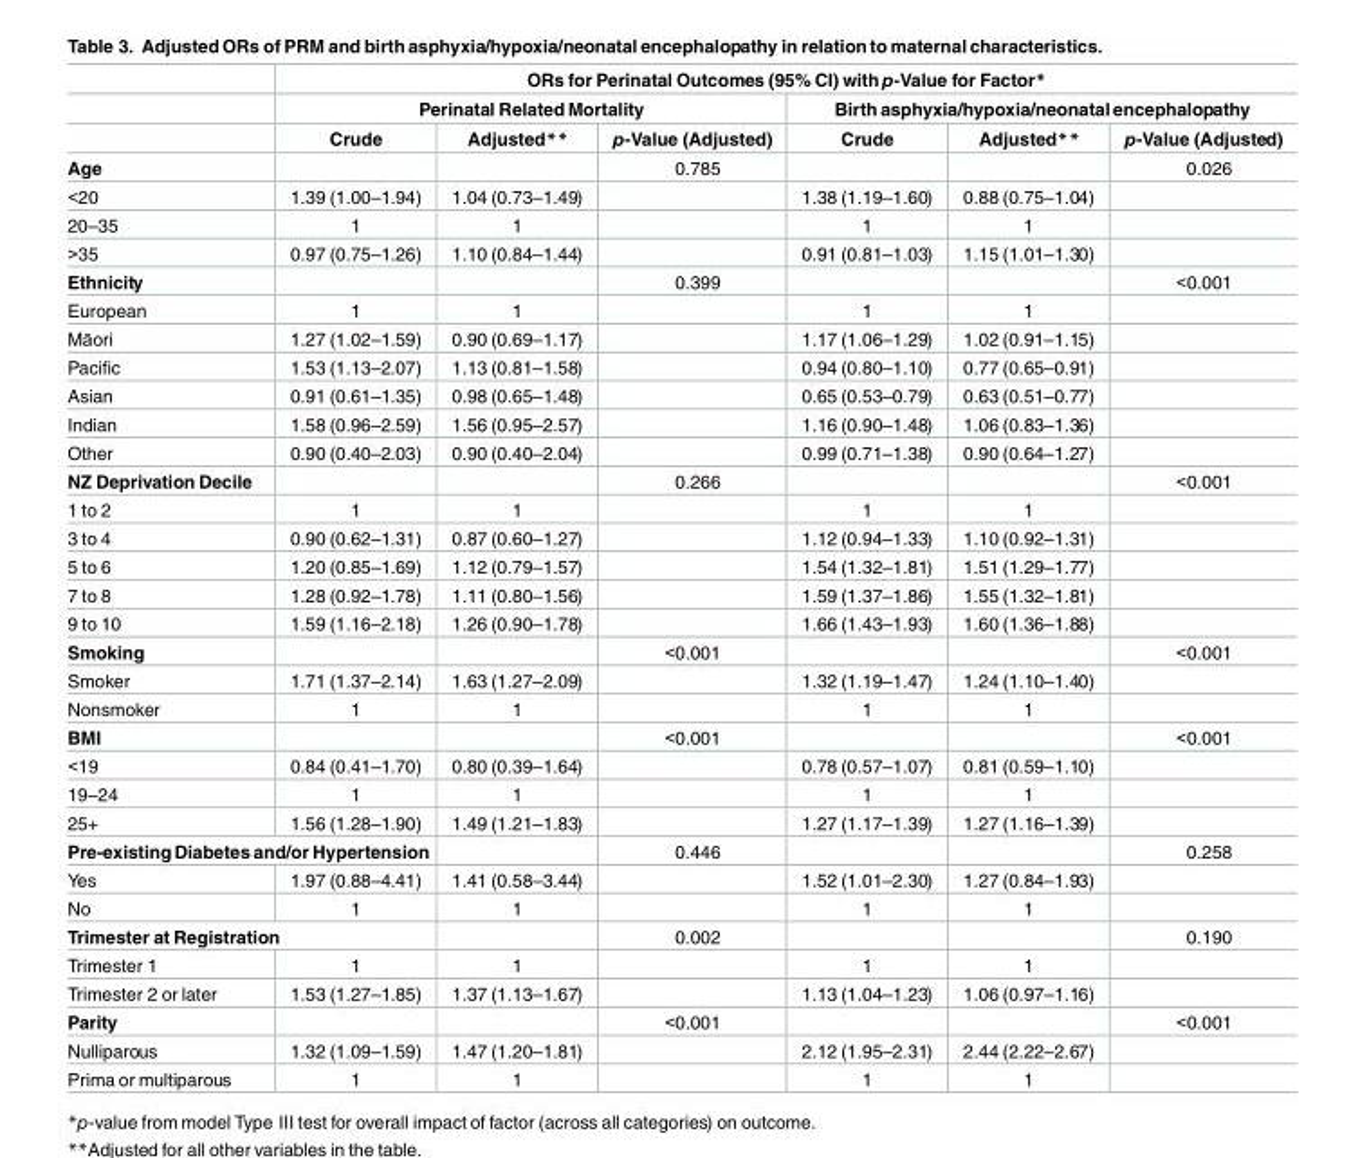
<table><thead><tr><td rowspan="3"></td><td colspan="6">ORs for Perinatal Outcomes (95% CI) with p-Value for Factor*</td></tr><tr><td colspan="3">Perinatal Related Mortality</td><td colspan="3">Birth asphyxia/hypoxia/neonatal encephalopathy</td></tr><tr><td>Crude</td><td>Adjusted**</td><td>p-Value (Adjusted)</td><td>Crude</td><td>Adjusted**</td><td>p-Value (Adjusted)</td></tr></thead><tbody><tr><td>Age</td><td></td><td></td><td>0.785</td><td></td><td></td><td>0.026</td></tr><tr><td>&lt;20</td><td>1.39 (1.00–1.94)</td><td>1.04 (0.73–1.49)</td><td></td><td>1.38 (1.19–1.60)</td><td>0.88 (0.75–1.04)</td><td></td></tr><tr><td>20–35</td><td>1</td><td>1</td><td></td><td>1</td><td>1</td><td></td></tr><tr><td>&gt;35</td><td>0.97 (0.75–1.26)</td><td>1.10 (0.84–1.44)</td><td></td><td>0.91 (0.81–1.03)</td><td>1.15 (1.01–1.30)</td><td></td></tr><tr><td>Ethnicity</td><td></td><td></td><td>0.399</td><td></td><td></td><td>&lt;0.001</td></tr><tr><td>European</td><td>1</td><td>1</td><td></td><td>1</td><td>1</td><td></td></tr><tr><td>Māori</td><td>1.27 (1.02–1.59)</td><td>0.90 (0.69–1.17)</td><td></td><td>1.17 (1.06–1.29)</td><td>1.02 (0.91–1.15)</td><td></td></tr><tr><td>Pacific</td><td>1.53 (1.13–2.07)</td><td>1.13 (0.81–1.58)</td><td></td><td>0.94 (0.80–1.10)</td><td>0.77 (0.65–0.91)</td><td></td></tr><tr><td>Asian</td><td>0.91 (0.61–1.35)</td><td>0.98 (0.65–1.48)</td><td></td><td>0.65 (0.53–0.79)</td><td>0.63 (0.51–0.77)</td><td></td></tr><tr><td>Indian</td><td>1.58 (0.96–2.59)</td><td>1.56 (0.95–2.57)</td><td></td><td>1.16 (0.90–1.48)</td><td>1.06 (0.83–1.36)</td><td></td></tr><tr><td>Other</td><td>0.90 (0.40–2.03)</td><td>0.90 (0.40–2.04)</td><td></td><td>0.99 (0.71–1.38)</td><td>0.90 (0.64–1.27)</td><td></td></tr><tr><td>NZ Deprivation Decile</td><td></td><td></td><td>0.266</td><td></td><td></td><td>&lt;0.001</td></tr><tr><td>1 to 2</td><td>1</td><td>1</td><td></td><td>1</td><td>1</td><td></td></tr><tr><td>3 to 4</td><td>0.90 (0.62–1.31)</td><td>0.87 (0.60–1.27)</td><td></td><td>1.12 (0.94–1.33)</td><td>1.10 (0.92–1.31)</td><td></td></tr><tr><td>5 to 6</td><td>1.20 (0.85–1.69)</td><td>1.12 (0.79–1.57)</td><td></td><td>1.54 (1.32–1.81)</td><td>1.51 (1.29–1.77)</td><td></td></tr><tr><td>7 to 8</td><td>1.28 (0.92–1.78)</td><td>1.11 (0.80–1.56)</td><td></td><td>1.59 (1.37–1.86)</td><td>1.55 (1.32–1.81)</td><td></td></tr><tr><td>9 to 10</td><td>1.59 (1.16–2.18)</td><td>1.26 (0.90–1.78)</td><td></td><td>1.66 (1.43–1.93)</td><td>1.60 (1.36–1.88)</td><td></td></tr><tr><td>Smoking</td><td></td><td></td><td>&lt;0.001</td><td></td><td></td><td>&lt;0.001</td></tr><tr><td>Smoker</td><td>1.71 (1.37–2.14)</td><td>1.63 (1.27–2.09)</td><td></td><td>1.32 (1.19–1.47)</td><td>1.24 (1.10–1.40)</td><td></td></tr><tr><td>Nonsmoker</td><td>1</td><td>1</td><td></td><td>1</td><td>1</td><td></td></tr><tr><td>BMI</td><td></td><td></td><td>&lt;0.001</td><td></td><td></td><td>&lt;0.001</td></tr><tr><td>&lt;19</td><td>0.84 (0.41–1.70)</td><td>0.80 (0.39–1.64)</td><td></td><td>0.78 (0.57–1.07)</td><td>0.81 (0.59–1.10)</td><td></td></tr><tr><td>19–24</td><td>1</td><td>1</td><td></td><td>1</td><td>1</td><td></td></tr><tr><td>25+</td><td>1.56 (1.28–1.90)</td><td>1.49 (1.21–1.83)</td><td></td><td>1.27 (1.17–1.39)</td><td>1.27 (1.16–1.39)</td><td></td></tr><tr><td colspan="2">Pre-existing Diabetes and/or Hypertension</td><td></td><td>0.446</td><td></td><td></td><td>0.258</td></tr><tr><td>Yes</td><td>1.97 (0.88–4.41)</td><td>1.41 (0.58–3.44)</td><td></td><td>1.52 (1.01–2.30)</td><td>1.27 (0.84–1.93)</td><td></td></tr><tr><td>No</td><td>1</td><td>1</td><td></td><td>1</td><td>1</td><td></td></tr><tr><td colspan="2">Trimester at Registration</td><td></td><td>0.002</td><td></td><td></td><td>0.190</td></tr><tr><td>Trimester 1</td><td>1</td><td>1</td><td></td><td>1</td><td>1</td><td></td></tr><tr><td>Trimester 2 or later</td><td>1.53 (1.27–1.85)</td><td>1.37 (1.13–1.67)</td><td></td><td>1.13 (1.04–1.23)</td><td>1.06 (0.97–1.16)</td><td></td></tr><tr><td>Parity</td><td></td><td></td><td>&lt;0.001</td><td></td><td></td><td>&lt;0.001</td></tr><tr><td>Nulliparous</td><td>1.32 (1.09–1.59)</td><td>1.47 (1.20–1.81)</td><td></td><td>2.12 (1.95–2.31)</td><td>2.44 (2.22–2.67)</td><td></td></tr><tr><td>Prima or multiparous</td><td>1</td><td>1</td><td></td><td>1</td><td>1</td><td></td></tr></tbody></table>